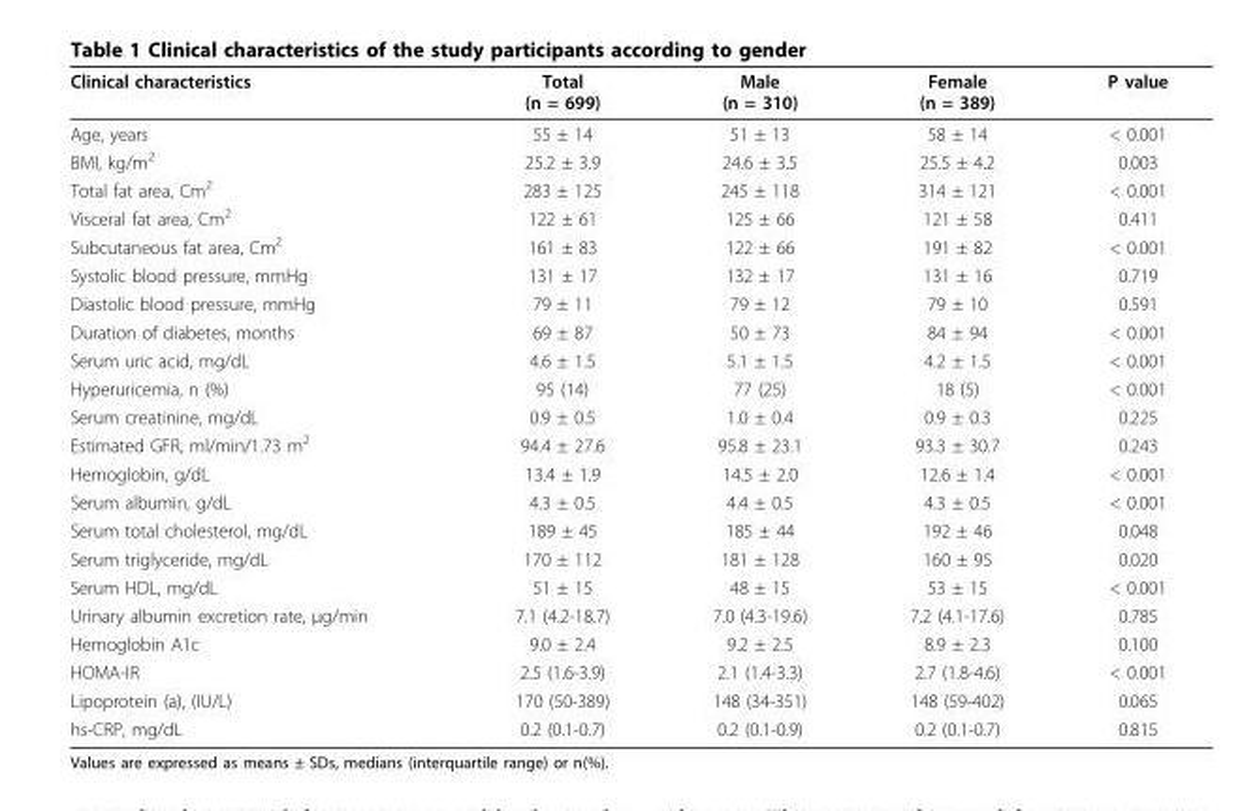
<table><thead><tr><td>Clinical characteristics</td><td>Total (n = 699)</td><td>Male (n = 310)</td><td>Female (n = 389)</td><td>P value</td></tr></thead><tbody><tr><td>Age, years</td><td>55 ± 14</td><td>51 ± 13</td><td>58 ± 14</td><td>&lt; 0.001</td></tr><tr><td>BMI, kg/m<sup>2</sup></td><td>25.2 ± 3.9</td><td>24.6 ± 3.5</td><td>25.5 ± 4.2</td><td>0.003</td></tr><tr><td>Total fat area, Cm<sup>2</sup></td><td>283 ± 125</td><td>245 ± 118</td><td>314 ± 121</td><td>&lt; 0.001</td></tr><tr><td>Visceral fat area, Cm<sup>2</sup></td><td>122 ± 61</td><td>125 ± 66</td><td>121 ± 58</td><td>0.411</td></tr><tr><td>Subcutaneous fat area, Cm<sup>2</sup></td><td>161 ± 83</td><td>122 ± 66</td><td>191 ± 82</td><td>&lt; 0.001</td></tr><tr><td>Systolic blood pressure, mmHg</td><td>131 ± 17</td><td>132 ± 17</td><td>131 ± 16</td><td>0.719</td></tr><tr><td>Diastolic blood pressure, mmHg</td><td>79 ± 11</td><td>79 ± 12</td><td>79 ± 10</td><td>0.591</td></tr><tr><td>Duration of diabetes, months</td><td>69 ± 87</td><td>50 ± 73</td><td>84 ± 94</td><td>&lt; 0.001</td></tr><tr><td>Serum uric acid, mg/dL</td><td>4.6 ± 1.5</td><td>5.1 ± 1.5</td><td>4.2 ± 1.5</td><td>&lt; 0.001</td></tr><tr><td>Hyperuricemia, n (%)</td><td>95 (14)</td><td>77 (25)</td><td>18 (5)</td><td>&lt; 0.001</td></tr><tr><td>Serum creatinine, mg/dL</td><td>0.9 ± 0.5</td><td>1.0 ± 0.4</td><td>0.9 ± 0.3</td><td>0.225</td></tr><tr><td>Estimated GFR, ml/min/1.73 m<sup>2</sup></td><td>94.4 ± 27.6</td><td>95.8 ± 23.1</td><td>93.3 ± 30.7</td><td>0.243</td></tr><tr><td>Hemoglobin, g/dL</td><td>13.4 ± 1.9</td><td>14.5 ± 2.0</td><td>12.6 ± 1.4</td><td>&lt; 0.001</td></tr><tr><td>Serum albumin, g/dL</td><td>4.3 ± 0.5</td><td>4.4 ± 0.5</td><td>4.3 ± 0.5</td><td>&lt; 0.001</td></tr><tr><td>Serum total cholesterol, mg/dL</td><td>189 ± 45</td><td>185 ± 44</td><td>192 ± 46</td><td>0.048</td></tr><tr><td>Serum triglyceride, mg/dL</td><td>170 ± 112</td><td>181 ± 128</td><td>160 ± 95</td><td>0.020</td></tr><tr><td>Serum HDL, mg/dL</td><td>51 ± 15</td><td>48 ± 15</td><td>53 ± 15</td><td>&lt; 0.001</td></tr><tr><td>Urinary albumin excretion rate, μg/min</td><td>7.1 (4.2-18.7)</td><td>7.0 (4.3-19.6)</td><td>7.2 (4.1-17.6)</td><td>0.785</td></tr><tr><td>Hemoglobin A1c</td><td>9.0 ± 2.4</td><td>9.2 ± 2.5</td><td>8.9 ± 2.3</td><td>0.100</td></tr><tr><td>HOMA-IR</td><td>2.5 (1.6-3.9)</td><td>2.1 (1.4-3.3)</td><td>2.7 (1.8-4.6)</td><td>&lt; 0.001</td></tr><tr><td>Lipoprotein (a), (IU/L)</td><td>170 (50-389)</td><td>148 (34-351)</td><td>148 (59-402)</td><td>0.065</td></tr><tr><td>hs-CRP, mg/dL</td><td>0.2 (0.1-0.7)</td><td>0.2 (0.1-0.9)</td><td>0.2 (0.1-0.7)</td><td>0.815</td></tr></tbody></table>